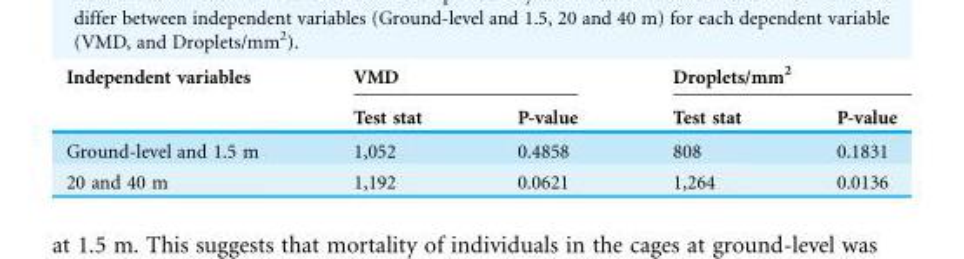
<table><thead><tr><td rowspan="2">Independent variables</td><td colspan="2">VMD</td><td colspan="2">Droplets/mm<sup>2</sup></td></tr><tr><td>Test stat</td><td>P-value</td><td>Test stat</td><td>P-value</td></tr></thead><tbody><tr><td>Ground-level and 1.5 m</td><td>1,052</td><td>0.4858</td><td>808</td><td>0.1831</td></tr><tr><td>20 and 40 m</td><td>1,192</td><td>0.0621</td><td>1,264</td><td>0.0136</td></tr></tbody></table>